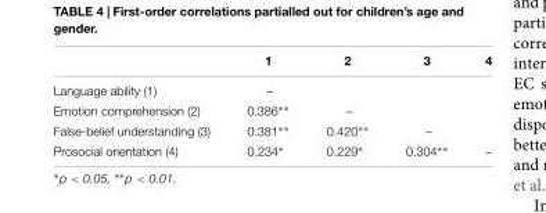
<table><thead><tr><td></td><td>1</td><td>2</td><td>3</td><td>4</td></tr></thead><tbody><tr><td>Language ability (1)</td><td>–</td><td></td><td></td><td></td></tr><tr><td>Emotion comprehension (2)</td><td>0.386∗∗</td><td>–</td><td></td><td></td></tr><tr><td>False-belief understanding (3)</td><td>0.381∗∗</td><td>0.420∗∗</td><td>–</td><td></td></tr><tr><td>Prosocial orientation (4)</td><td>0.234∗</td><td>0.229∗</td><td>0.304∗∗</td><td>–</td></tr></tbody></table>